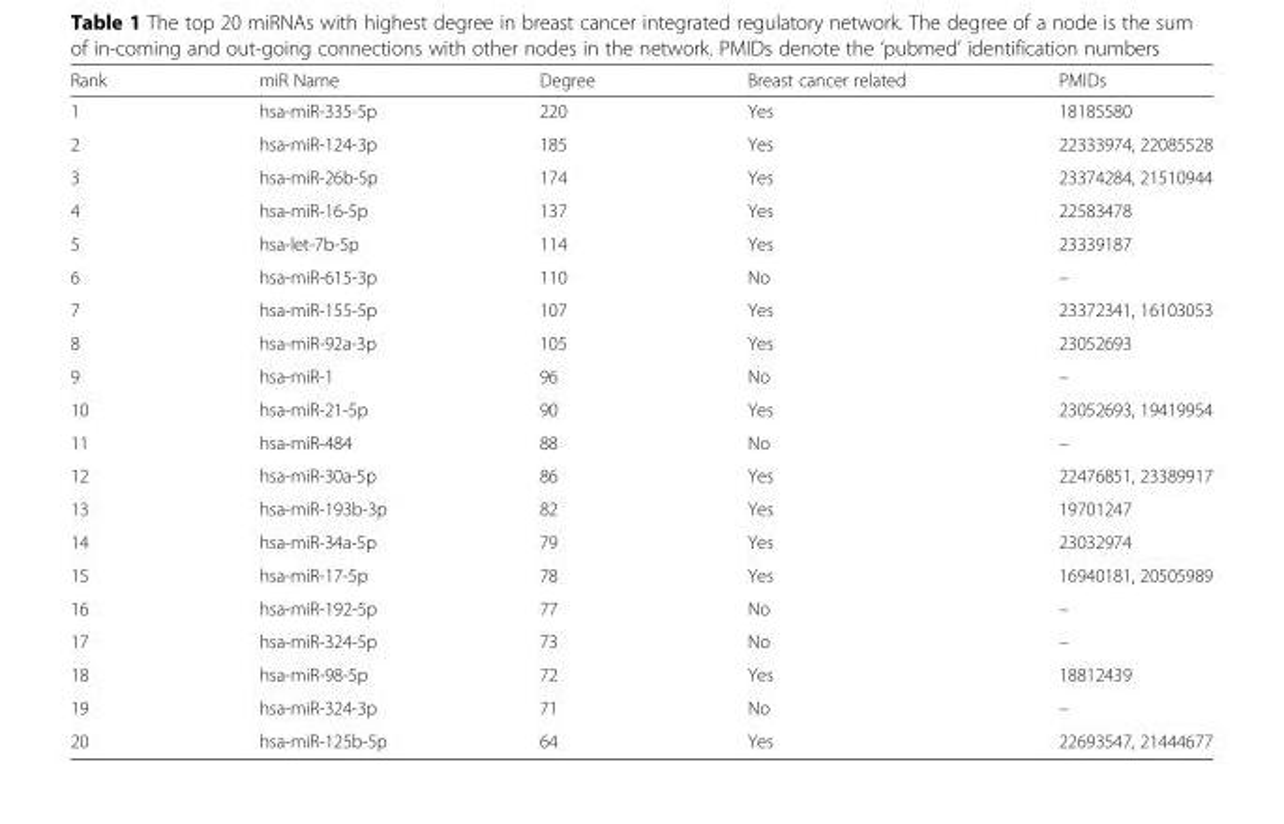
<table><thead><tr><td>Rank</td><td>miR Name</td><td>Degree</td><td>Breast cancer related</td><td>PMIDs</td></tr></thead><tbody><tr><td>1</td><td>hsa-miR-335-5p</td><td>220</td><td>Yes</td><td>18185580</td></tr><tr><td>2</td><td>hsa-miR-124-3p</td><td>185</td><td>Yes</td><td>22333974, 22085528</td></tr><tr><td>3</td><td>hsa-miR-26b-5p</td><td>174</td><td>Yes</td><td>23374284, 21510944</td></tr><tr><td>4</td><td>hsa-miR-16-5p</td><td>137</td><td>Yes</td><td>22583478</td></tr><tr><td>5</td><td>hsa-let-7b-5p</td><td>114</td><td>Yes</td><td>23339187</td></tr><tr><td>6</td><td>hsa-miR-615-3p</td><td>110</td><td>No</td><td>–</td></tr><tr><td>7</td><td>hsa-miR-155-5p</td><td>107</td><td>Yes</td><td>23372341, 16103053</td></tr><tr><td>8</td><td>hsa-miR-92a-3p</td><td>105</td><td>Yes</td><td>23052693</td></tr><tr><td>9</td><td>hsa-miR-1</td><td>96</td><td>No</td><td>–</td></tr><tr><td>10</td><td>hsa-miR-21-5p</td><td>90</td><td>Yes</td><td>23052693, 19419954</td></tr><tr><td>11</td><td>hsa-miR-484</td><td>88</td><td>No</td><td>–</td></tr><tr><td>12</td><td>hsa-miR-30a-5p</td><td>86</td><td>Yes</td><td>22476851, 23389917</td></tr><tr><td>13</td><td>hsa-miR-193b-3p</td><td>82</td><td>Yes</td><td>19701247</td></tr><tr><td>14</td><td>hsa-miR-34a-5p</td><td>79</td><td>Yes</td><td>23032974</td></tr><tr><td>15</td><td>hsa-miR-17-5p</td><td>78</td><td>Yes</td><td>16940181, 20505989</td></tr><tr><td>16</td><td>hsa-miR-192-5p</td><td>77</td><td>No</td><td>–</td></tr><tr><td>17</td><td>hsa-miR-324-5p</td><td>73</td><td>No</td><td>–</td></tr><tr><td>18</td><td>hsa-miR-98-5p</td><td>72</td><td>Yes</td><td>18812439</td></tr><tr><td>19</td><td>hsa-miR-324-3p</td><td>71</td><td>No</td><td>–</td></tr><tr><td>20</td><td>hsa-miR-125b-5p</td><td>64</td><td>Yes</td><td>22693547, 21444677</td></tr></tbody></table>